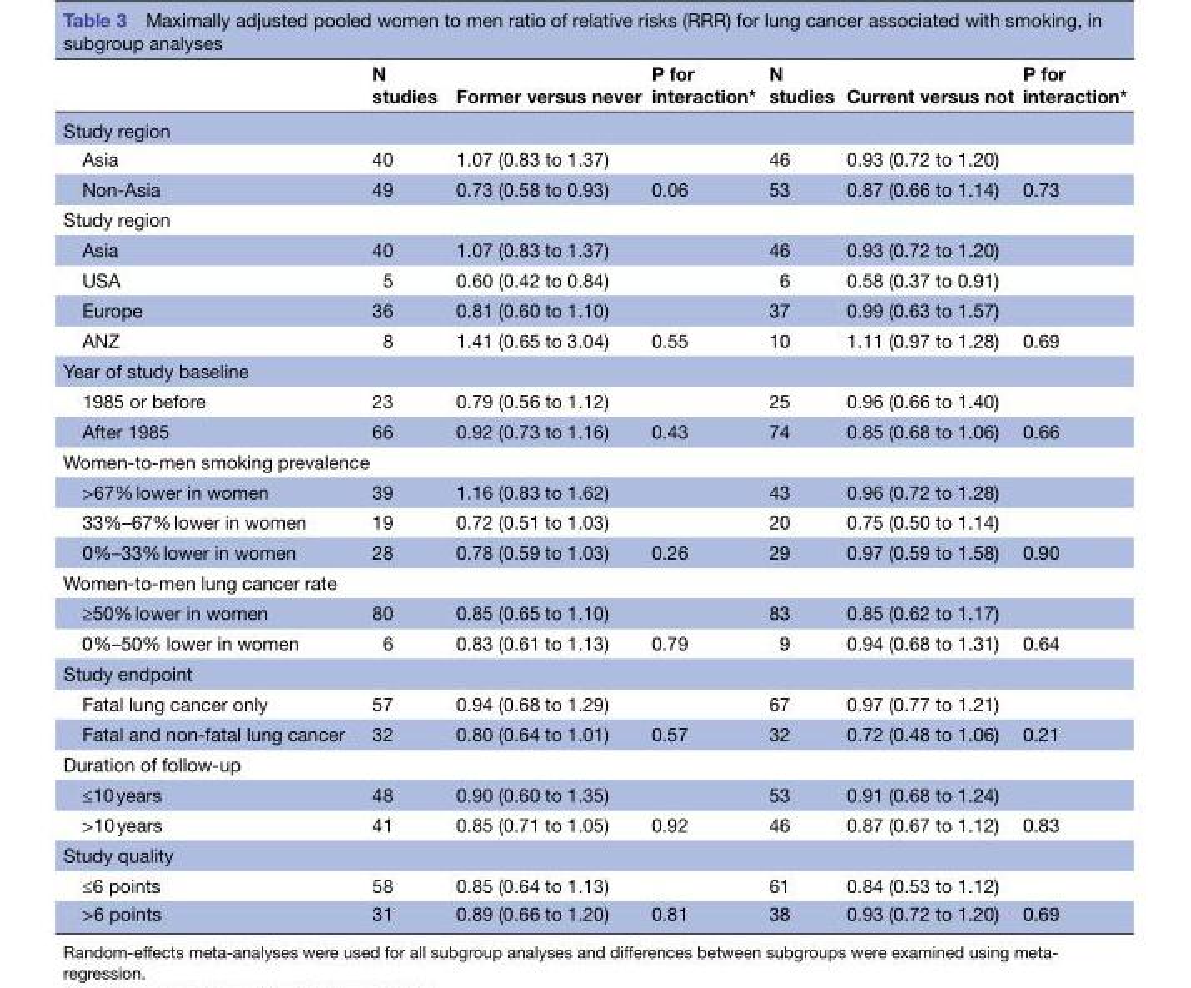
<table><thead><tr><td></td><td>N studies</td><td>Former versus never</td><td>P for interaction*</td><td>N studies</td><td>Current versus not</td><td>P for interaction*</td></tr></thead><tbody><tr><td colspan="7">Study region</td></tr><tr><td>Asia</td><td>40</td><td>1.07 (0.83 to 1.37)</td><td></td><td>46</td><td>0.93 (0.72 to 1.20)</td><td></td></tr><tr><td>Non-Asia</td><td>49</td><td>0.73 (0.58 to 0.93)</td><td>0.06</td><td>53</td><td>0.87 (0.66 to 1.14)</td><td>0.73</td></tr><tr><td colspan="7">Study region</td></tr><tr><td>Asia</td><td>40</td><td>1.07 (0.83 to 1.37)</td><td></td><td>46</td><td>0.93 (0.72 to 1.20)</td><td></td></tr><tr><td>USA</td><td>5</td><td>0.60 (0.42 to 0.84)</td><td></td><td>6</td><td>0.58 (0.37 to 0.91)</td><td></td></tr><tr><td>Europe</td><td>36</td><td>0.81 (0.60 to 1.10)</td><td></td><td>37</td><td>0.99 (0.63 to 1.57)</td><td></td></tr><tr><td>ANZ</td><td>8</td><td>1.41 (0.65 to 3.04)</td><td>0.55</td><td>10</td><td>1.11 (0.97 to 1.28)</td><td>0.69</td></tr><tr><td colspan="7">Year of study baseline</td></tr><tr><td>1985 or before</td><td>23</td><td>0.79 (0.56 to 1.12)</td><td></td><td>25</td><td>0.96 (0.66 to 1.40)</td><td></td></tr><tr><td>After 1985</td><td>66</td><td>0.92 (0.73 to 1.16)</td><td>0.43</td><td>74</td><td>0.85 (0.68 to 1.06)</td><td>0.66</td></tr><tr><td colspan="7">Women-to-men smoking prevalence</td></tr><tr><td>&gt;67% lower in women</td><td>39</td><td>1.16 (0.83 to 1.62)</td><td></td><td>43</td><td>0.96 (0.72 to 1.28)</td><td></td></tr><tr><td>33%–67% lower in women</td><td>19</td><td>0.72 (0.51 to 1.03)</td><td></td><td>20</td><td>0.75 (0.50 to 1.14)</td><td></td></tr><tr><td>0%–33% lower in women</td><td>28</td><td>0.78 (0.59 to 1.03)</td><td>0.26</td><td>29</td><td>0.97 (0.59 to 1.58)</td><td>0.90</td></tr><tr><td colspan="7">Women-to-men lung cancer rate</td></tr><tr><td>≥50% lower in women</td><td>80</td><td>0.85 (0.65 to 1.10)</td><td></td><td>83</td><td>0.85 (0.62 to 1.17)</td><td></td></tr><tr><td>0%–50% lower in women</td><td>6</td><td>0.83 (0.61 to 1.13)</td><td>0.79</td><td>9</td><td>0.94 (0.68 to 1.31)</td><td>0.64</td></tr><tr><td colspan="7">Study endpoint</td></tr><tr><td>Fatal lung cancer only</td><td>57</td><td>0.94 (0.68 to 1.29)</td><td></td><td>67</td><td>0.97 (0.77 to 1.21)</td><td></td></tr><tr><td>Fatal and non-fatal lung cancer</td><td>32</td><td>0.80 (0.64 to 1.01)</td><td>0.57</td><td>32</td><td>0.72 (0.48 to 1.06)</td><td>0.21</td></tr><tr><td colspan="7">Duration of follow-up</td></tr><tr><td>≤10 years</td><td>48</td><td>0.90 (0.60 to 1.35)</td><td></td><td>53</td><td>0.91 (0.68 to 1.24)</td><td></td></tr><tr><td>&gt;10 years</td><td>41</td><td>0.85 (0.71 to 1.05)</td><td>0.92</td><td>46</td><td>0.87 (0.67 to 1.12)</td><td>0.83</td></tr><tr><td colspan="7">Study quality</td></tr><tr><td>≤6 points</td><td>58</td><td>0.85 (0.64 to 1.13)</td><td></td><td>61</td><td>0.84 (0.53 to 1.12)</td><td></td></tr><tr><td>&gt;6 points</td><td>31</td><td>0.89 (0.66 to 1.20)</td><td>0.81</td><td>38</td><td>0.93 (0.72 to 1.20)</td><td>0.69</td></tr></tbody></table>